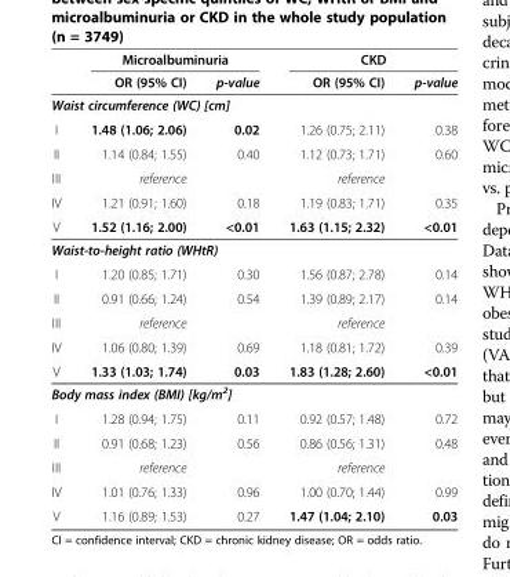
<table><thead><tr><td rowspan="2"></td><td colspan="2">Microalbuminuria</td><td colspan="2">CKD</td></tr><tr><td>OR (95% CI)</td><td>p-value</td><td>OR (95% CI)</td><td>p-value</td></tr></thead><tbody><tr><td colspan="5">Waist circumference (WC) [cm]</td></tr><tr><td>I</td><td>1.48 (1.06; 2.06)</td><td>0.02</td><td>1.26 (0.75; 2.11)</td><td>0.38</td></tr><tr><td>II</td><td>1.14 (0.84; 1.55)</td><td>0.40</td><td>1.12 (0.73; 1.71)</td><td>0.60</td></tr><tr><td>III</td><td>reference</td><td></td><td>reference</td><td></td></tr><tr><td>IV</td><td>1.21 (0.91; 1.60)</td><td>0.18</td><td>1.19 (0.83; 1.71)</td><td>0.35</td></tr><tr><td>V</td><td>1.52 (1.16; 2.00)</td><td>&lt;0.01</td><td>1.63 (1.15; 2.32)</td><td>&lt;0.01</td></tr><tr><td colspan="5">Waist-to-height ratio (WHtR)</td></tr><tr><td>I</td><td>1.20 (0.85; 1.71)</td><td>0.30</td><td>1.56 (0.87; 2.78)</td><td>0.14</td></tr><tr><td>II</td><td>0.91 (0.66; 1.24)</td><td>0.54</td><td>1.39 (0.89; 2.17)</td><td>0.14</td></tr><tr><td>III</td><td>reference</td><td></td><td>reference</td><td></td></tr><tr><td>IV</td><td>1.06 (0.80; 1.39)</td><td>0.69</td><td>1.18 (0.81; 1.72)</td><td>0.39</td></tr><tr><td>V</td><td>1.33 (1.03; 1.74)</td><td>0.03</td><td>1.83 (1.28; 2.60)</td><td>&lt;0.01</td></tr><tr><td colspan="5">Body mass index (BMI) [kg/m<sup>2</sup>]</td></tr><tr><td>I</td><td>1.28 (0.94; 1.75)</td><td>0.11</td><td>0.92 (0.57; 1.48)</td><td>0.72</td></tr><tr><td>II</td><td>0.91 (0.68; 1.23)</td><td>0.56</td><td>0.86 (0.56; 1.31)</td><td>0.48</td></tr><tr><td>III</td><td>reference</td><td></td><td>reference</td><td></td></tr><tr><td>IV</td><td>1.01 (0.76; 1.33)</td><td>0.96</td><td>1.00 (0.70; 1.44)</td><td>0.99</td></tr><tr><td>V</td><td>1.16 (0.89; 1.53)</td><td>0.27</td><td>1.47 (1.04; 2.10)</td><td>0.03</td></tr></tbody></table>